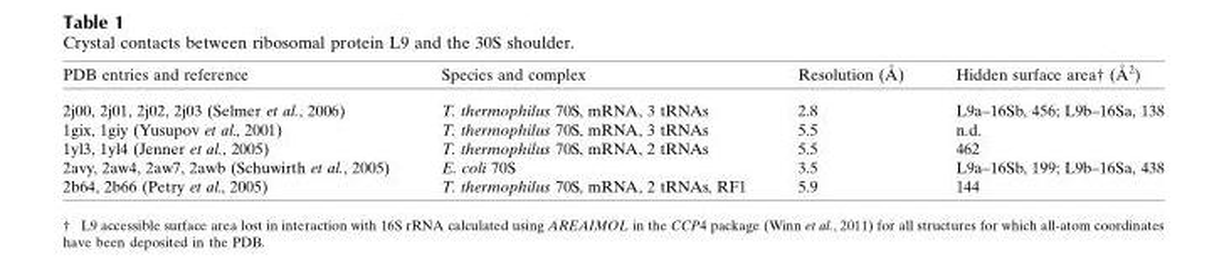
<table><thead><tr><td>PDB entries and reference</td><td>Species and complex</td><td>Resolution (A˚ )</td><td>Hidden surface area† (A˚ 2)</td></tr></thead><tbody><tr><td>2j00, 2j01, 2j02, 2j03 (Selmer et al., 2006)</td><td>T. thermophilus 70S, mRNA, 3 tRNAs</td><td>2.8</td><td>L9a–16Sb, 456; L9b–16Sa, 138</td></tr><tr><td>1gix, 1giy (Yusupov et al., 2001)</td><td>T. thermophilus 70S, mRNA, 3 tRNAs</td><td>5.5</td><td>n.d.</td></tr><tr><td>1yl3, 1yl4 (Jenner et al., 2005)</td><td>T. thermophilus 70S, mRNA, 2 tRNAs</td><td>5.5</td><td>462</td></tr><tr><td>2avy, 2aw4, 2aw7, 2awb (Schuwirth et al., 2005)</td><td>E. coli 70S</td><td>3.5</td><td>L9a–16Sb, 199; L9b–16Sa, 438</td></tr><tr><td>2b64, 2b66 (Petry et al., 2005)</td><td>T. thermophilus 70S, mRNA, 2 tRNAs, RF1</td><td>5.9</td><td>144</td></tr></tbody></table>